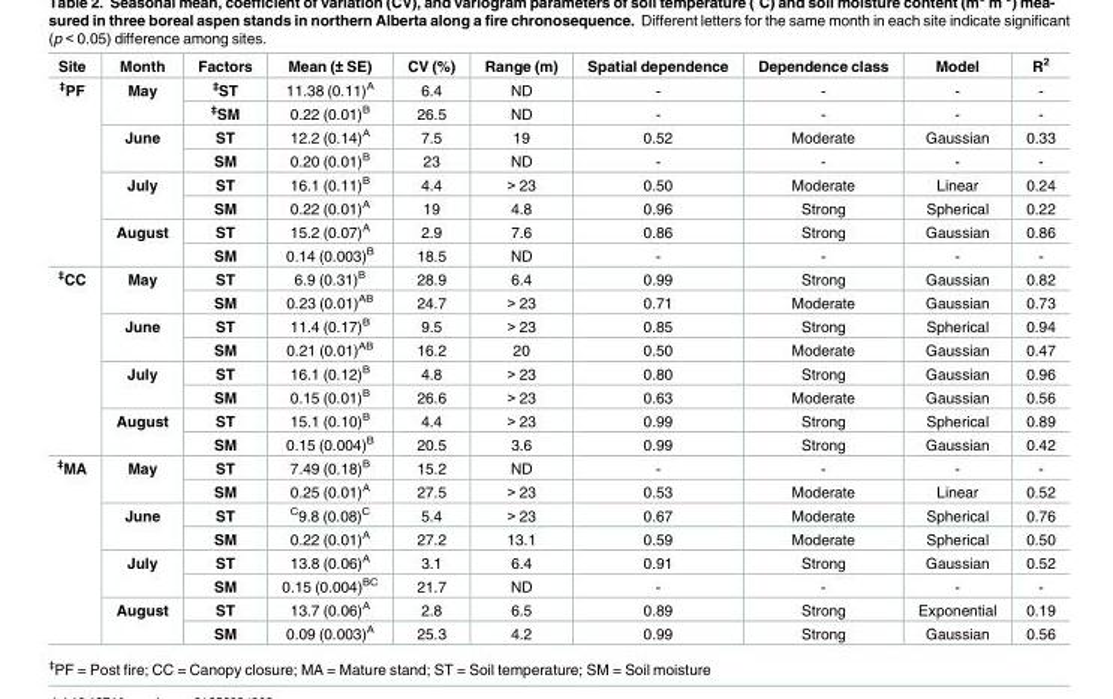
<table><thead><tr><td>Site</td><td>Month</td><td>Factors</td><td>Mean (± SE)</td><td>CV (%)</td><td>Range (m)</td><td>Spatial dependence</td><td>Dependence class</td><td>Model</td><td>R<sup>2</sup></td></tr></thead><tbody><tr><td rowspan="8"><sup>‡</sup>PF</td><td rowspan="2">May</td><td><sup>‡</sup>ST</td><td>11.38 (0.11)<sup>A</sup></td><td>6.4</td><td>ND</td><td>-</td><td>-</td><td>-</td><td>-</td></tr><tr><td><sup>‡</sup>SM</td><td>0.22 (0.01)<sup>B</sup></td><td>26.5</td><td>ND</td><td>-</td><td>-</td><td>-</td><td>-</td></tr><tr><td rowspan="2">June</td><td>ST</td><td>12.2 (0.14)<sup>A</sup></td><td>7.5</td><td>19</td><td>0.52</td><td>Moderate</td><td>Gaussian</td><td>0.33</td></tr><tr><td>SM</td><td>0.20 (0.01)<sup>B</sup></td><td>23</td><td>ND</td><td>-</td><td>-</td><td>-</td><td>-</td></tr><tr><td rowspan="2">July</td><td>ST</td><td>16.1 (0.11)<sup>B</sup></td><td>4.4</td><td>&gt; 23</td><td>0.50</td><td>Moderate</td><td>Linear</td><td>0.24</td></tr><tr><td>SM</td><td>0.22 (0.01)<sup>A</sup></td><td>19</td><td>4.8</td><td>0.96</td><td>Strong</td><td>Spherical</td><td>0.22</td></tr><tr><td rowspan="2">August</td><td>ST</td><td>15.2 (0.07)<sup>A</sup></td><td>2.9</td><td>7.6</td><td>0.86</td><td>Strong</td><td>Gaussian</td><td>0.86</td></tr><tr><td>SM</td><td>0.14 (0.003)<sup>B</sup></td><td>18.5</td><td>ND</td><td>-</td><td>-</td><td>-</td><td>-</td></tr><tr><td rowspan="8"><sup>‡</sup>CC</td><td rowspan="2">May</td><td>ST</td><td>6.9 (0.31)<sup>B</sup></td><td>28.9</td><td>6.4</td><td>0.99</td><td>Strong</td><td>Gaussian</td><td>0.82</td></tr><tr><td>SM</td><td>0.23 (0.01)<sup>AB</sup></td><td>24.7</td><td>&gt; 23</td><td>0.71</td><td>Moderate</td><td>Gaussian</td><td>0.73</td></tr><tr><td rowspan="2">June</td><td>ST</td><td>11.4 (0.17)<sup>B</sup></td><td>9.5</td><td>&gt; 23</td><td>0.85</td><td>Strong</td><td>Spherical</td><td>0.94</td></tr><tr><td>SM</td><td>0.21 (0.01)<sup>AB</sup></td><td>16.2</td><td>20</td><td>0.50</td><td>Moderate</td><td>Gaussian</td><td>0.47</td></tr><tr><td rowspan="2">July</td><td>ST</td><td>16.1 (0.12)<sup>B</sup></td><td>4.8</td><td>&gt; 23</td><td>0.80</td><td>Strong</td><td>Gaussian</td><td>0.96</td></tr><tr><td>SM</td><td>0.15 (0.01)<sup>B</sup></td><td>26.6</td><td>&gt; 23</td><td>0.63</td><td>Moderate</td><td>Gaussian</td><td>0.56</td></tr><tr><td rowspan="2">August</td><td>ST</td><td>15.1 (0.10)<sup>B</sup></td><td>4.4</td><td>&gt; 23</td><td>0.99</td><td>Strong</td><td>Spherical</td><td>0.89</td></tr><tr><td>SM</td><td>0.15 (0.004)<sup>B</sup></td><td>20.5</td><td>3.6</td><td>0.99</td><td>Strong</td><td>Gaussian</td><td>0.42</td></tr><tr><td rowspan="8"><sup>‡</sup>MA</td><td rowspan="2">May</td><td>ST</td><td>7.49 (0.18)<sup>B</sup></td><td>15.2</td><td>ND</td><td>-</td><td>-</td><td>-</td><td>-</td></tr><tr><td>SM</td><td>0.25 (0.01)<sup>A</sup></td><td>27.5</td><td>&gt; 23</td><td>0.53</td><td>Moderate</td><td>Linear</td><td>0.52</td></tr><tr><td rowspan="2">June</td><td>ST</td><td><sup>C</sup>9.8 (0.08)<sup>C</sup></td><td>5.4</td><td>&gt; 23</td><td>0.67</td><td>Moderate</td><td>Spherical</td><td>0.76</td></tr><tr><td>SM</td><td>0.22 (0.01)<sup>A</sup></td><td>27.2</td><td>13.1</td><td>0.59</td><td>Moderate</td><td>Spherical</td><td>0.50</td></tr><tr><td rowspan="2">July</td><td>ST</td><td>13.8 (0.06)<sup>A</sup></td><td>3.1</td><td>6.4</td><td>0.91</td><td>Strong</td><td>Gaussian</td><td>0.52</td></tr><tr><td>SM</td><td>0.15 (0.004)<sup>BC</sup></td><td>21.7</td><td>ND</td><td>-</td><td>-</td><td>-</td><td>-</td></tr><tr><td rowspan="2">August</td><td>ST</td><td>13.7 (0.06)<sup>A</sup></td><td>2.8</td><td>6.5</td><td>0.89</td><td>Strong</td><td>Exponential</td><td>0.19</td></tr><tr><td>SM</td><td>0.09 (0.003)<sup>A</sup></td><td>25.3</td><td>4.2</td><td>0.99</td><td>Strong</td><td>Gaussian</td><td>0.56</td></tr></tbody></table>